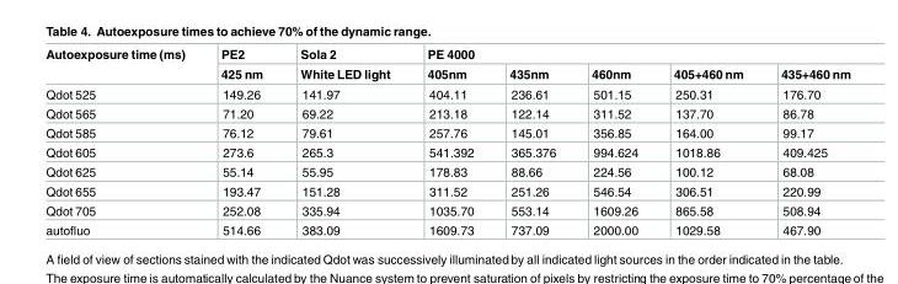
<table><thead><tr><td rowspan="2">Autoexposure time (ms)</td><td rowspan="2">PE2 425 nm</td><td rowspan="2">Sola 2 White LED light</td><td colspan="5">PE 4000</td></tr><tr><td>405nm</td><td>435nm</td><td>460nm</td><td>405+460 nm</td><td>435+460 nm</td></tr></thead><tbody><tr><td>Qdot 525</td><td>149.26</td><td>141.97</td><td>404.11</td><td>236.61</td><td>501.15</td><td>250.31</td><td>176.70</td></tr><tr><td>Qdot 565</td><td>71.20</td><td>69.22</td><td>213.18</td><td>122.14</td><td>311.52</td><td>137.70</td><td>86.78</td></tr><tr><td>Qdot 585</td><td>76.12</td><td>79.61</td><td>257.76</td><td>145.01</td><td>356.85</td><td>164.00</td><td>99.17</td></tr><tr><td>Qdot 605</td><td>273.6</td><td>265.3</td><td>541.392</td><td>365.376</td><td>994.624</td><td>1018.86</td><td>409.425</td></tr><tr><td>Qdot 625</td><td>55.14</td><td>55.95</td><td>178.83</td><td>88.66</td><td>224.56</td><td>100.12</td><td>68.08</td></tr><tr><td>Qdot 655</td><td>193.47</td><td>151.28</td><td>311.52</td><td>251.26</td><td>546.54</td><td>306.51</td><td>220.99</td></tr><tr><td>Qdot 705</td><td>252.08</td><td>335.94</td><td>1035.70</td><td>553.14</td><td>1609.26</td><td>865.58</td><td>508.94</td></tr><tr><td>autofluo</td><td>514.66</td><td>383.09</td><td>1609.73</td><td>737.09</td><td>2000.00</td><td>1029.58</td><td>467.90</td></tr></tbody></table>